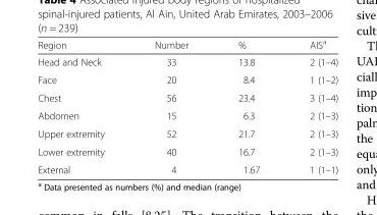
<table><thead><tr><td>Region</td><td>Number</td><td>%</td><td>AIS<sup>a</sup></td></tr></thead><tbody><tr><td>Head and Neck</td><td>33</td><td>13.8</td><td>2 (1–4)</td></tr><tr><td>Face</td><td>20</td><td>8.4</td><td>1 (1–2)</td></tr><tr><td>Chest</td><td>56</td><td>23.4</td><td>3 (1–4)</td></tr><tr><td>Abdomen</td><td>15</td><td>6.3</td><td>2 (1–3)</td></tr><tr><td>Upper extremity</td><td>52</td><td>21.7</td><td>2 (1–3)</td></tr><tr><td>Lower extremity</td><td>40</td><td>16.7</td><td>2 (1–3)</td></tr><tr><td>External</td><td>4</td><td>1.67</td><td>1 (1–1)</td></tr></tbody></table>